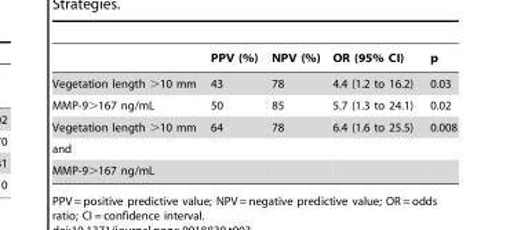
<table><thead><tr><td></td><td>PPV (%)</td><td>NPV (%)</td><td>OR (95% CI)</td><td>p</td></tr></thead><tbody><tr><td>Vegetation length &gt;10 mm</td><td>43</td><td>78</td><td>4.4 (1.2 to 16.2)</td><td>0.03</td></tr><tr><td>MMP-9&gt;167 ng/mL</td><td>50</td><td>85</td><td>5.7 (1.3 to 24.1)</td><td>0.02</td></tr><tr><td>Vegetation length &gt;10 mm</td><td>64</td><td>78</td><td>6.4 (1.6 to 25.5)</td><td>0.008</td></tr><tr><td colspan="5">and</td></tr><tr><td>MMP-9&gt;167 ng/mL</td><td></td><td></td><td></td><td></td></tr></tbody></table>